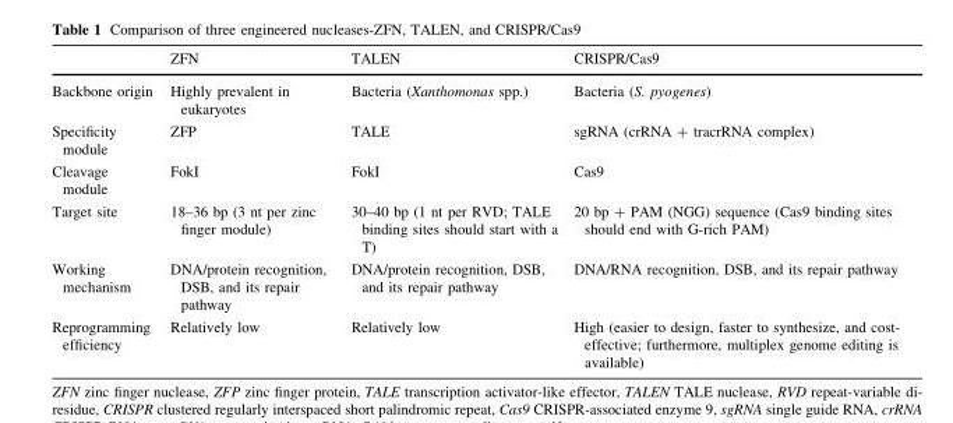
<table><thead><tr><td></td><td>ZFN</td><td>TALEN</td><td>CRISPR/Cas9</td></tr></thead><tbody><tr><td>Backbone origin</td><td>Highly prevalent in eukaryotes</td><td>Bacteria (Xanthomonas spp.)</td><td>Bacteria (S. pyogenes)</td></tr><tr><td>Specificity module</td><td>ZFP</td><td>TALE</td><td>sgRNA (crRNA + tracrRNA complex)</td></tr><tr><td>Cleavage module</td><td>FokI</td><td>FokI</td><td>Cas9</td></tr><tr><td>Target site</td><td>18–36 bp (3 nt per zinc finger module)</td><td>30–40 bp (1 nt per RVD; TALE binding sites should start with a T)</td><td>20 bp + PAM (NGG) sequence (Cas9 binding sites should end with G-rich PAM)</td></tr><tr><td>Working mechanism</td><td>DNA/protein recognition, DSB, and its repair pathway</td><td>DNA/protein recognition, DSB, and its repair pathway</td><td>DNA/RNA recognition, DSB, and its repair pathway</td></tr><tr><td>Reprogramming efficiency</td><td>Relatively low</td><td>Relatively low</td><td>High (easier to design, faster to synthesize, and cost- effective; furthermore, multiplex genome editing is available)</td></tr></tbody></table>